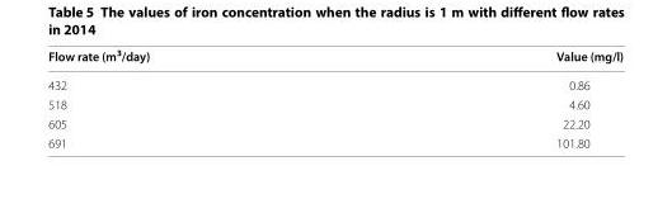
<table><thead><tr><td>Flow rate (m<sup>3</sup>/day)</td><td>Value (mg/l)</td></tr></thead><tbody><tr><td>432</td><td>0.86</td></tr><tr><td>518</td><td>4.60</td></tr><tr><td>605</td><td>22.20</td></tr><tr><td>691</td><td>101.80</td></tr></tbody></table>